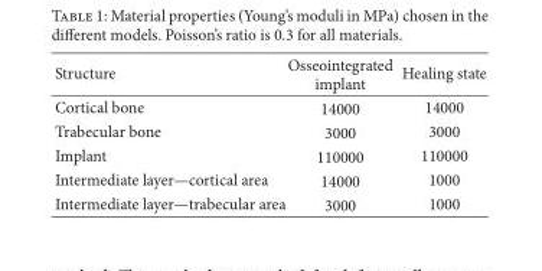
<table><thead><tr><td>Structure</td><td>Osseointegrated implant</td><td>Healing state</td></tr></thead><tbody><tr><td>Cortical bone</td><td>14000</td><td>14000</td></tr><tr><td>Trabecular bone</td><td>3000</td><td>3000</td></tr><tr><td>Implant</td><td>110000</td><td>110000</td></tr><tr><td>Intermediate layer—cortical area</td><td>14000</td><td>1000</td></tr><tr><td>Intermediate layer—trabecular area</td><td>3000</td><td>1000</td></tr></tbody></table>